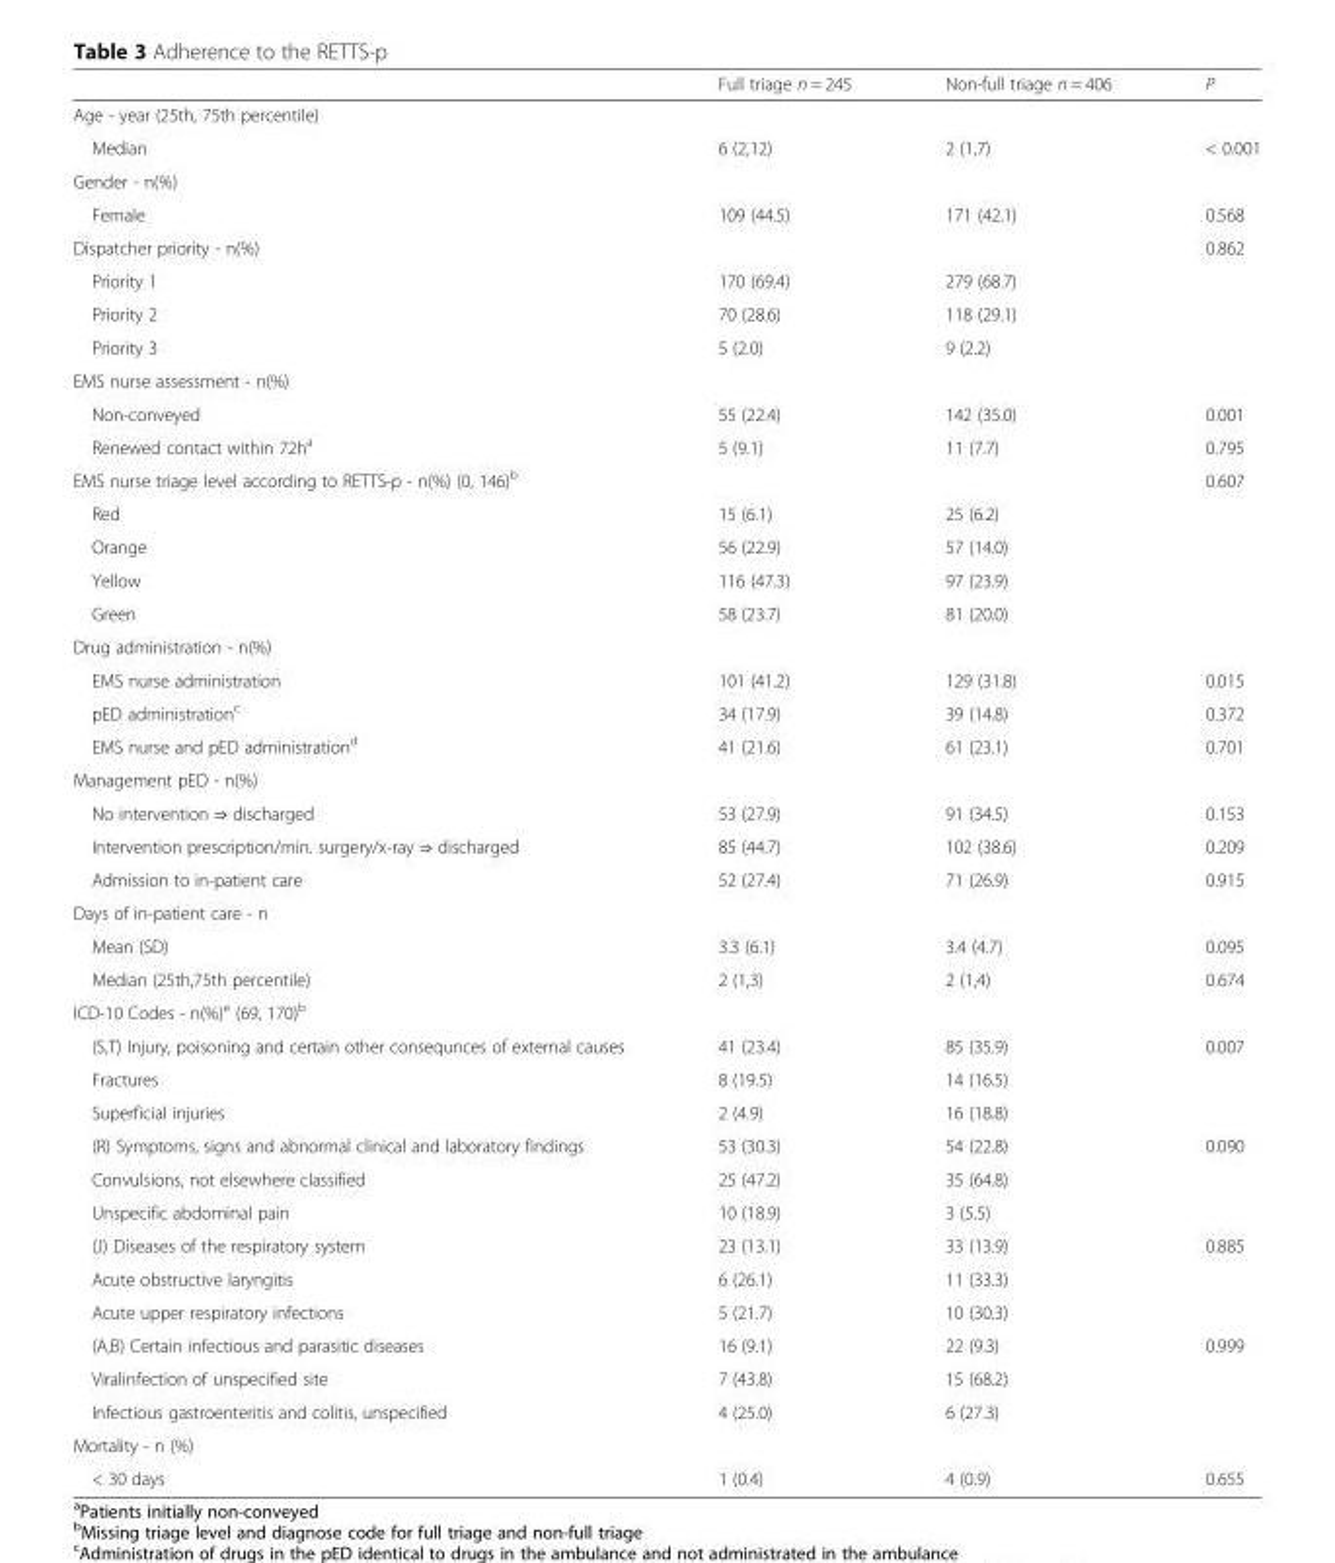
<table><thead><tr><td></td><td>Full triage n = 245</td><td>Non-full triage n = 406</td><td>P</td></tr></thead><tbody><tr><td colspan="4">Age - year (25th, 75th percentile)</td></tr><tr><td>Median</td><td>6 (2,12)</td><td>2 (1,7)</td><td>&lt; 0.001</td></tr><tr><td colspan="4">Gender - n(%)</td></tr><tr><td>Female</td><td>109 (44.5)</td><td>171 (42.1)</td><td>0.568</td></tr><tr><td>Dispatcher priority - n(%)</td><td></td><td></td><td>0.862</td></tr><tr><td>Priority 1</td><td>170 (69.4)</td><td>279 (68.7)</td><td></td></tr><tr><td>Priority 2</td><td>70 (28.6)</td><td>118 (29.1)</td><td></td></tr><tr><td>Priority 3</td><td>5 (2.0)</td><td>9 (2.2)</td><td></td></tr><tr><td colspan="4">EMS nurse assessment - n(%)</td></tr><tr><td>Non-conveyed</td><td>55 (22.4)</td><td>142 (35.0)</td><td>0.001</td></tr><tr><td>Renewed contact within 72h<sup>a</sup></td><td>5 (9.1)</td><td>11 (7.7)</td><td>0.795</td></tr><tr><td>EMS nurse triage level according to RETTS-p - n(%) (0, 146)<sup>b</sup></td><td></td><td></td><td>0.607</td></tr><tr><td>Red</td><td>15 (6.1)</td><td>25 (6.2)</td><td></td></tr><tr><td>Orange</td><td>56 (22.9)</td><td>57 (14.0)</td><td></td></tr><tr><td>Yellow</td><td>116 (47.3)</td><td>97 (23.9)</td><td></td></tr><tr><td>Green</td><td>58 (23.7)</td><td>81 (20.0)</td><td></td></tr><tr><td colspan="4">Drug administration - n(%)</td></tr><tr><td>EMS nurse administration</td><td>101 (41.2)</td><td>129 (31.8)</td><td>0.015</td></tr><tr><td>pED administration<sup>c</sup></td><td>34 (17.9)</td><td>39 (14.8)</td><td>0.372</td></tr><tr><td>EMS nurse and pED administration<sup>d</sup></td><td>41 (21.6)</td><td>61 (23.1)</td><td>0.701</td></tr><tr><td colspan="4">Management pED - n(%)</td></tr><tr><td>No intervention ⇒ discharged</td><td>53 (27.9)</td><td>91 (34.5)</td><td>0.153</td></tr><tr><td>Intervention prescription/min. surgery/x-ray ⇒ discharged</td><td>85 (44.7)</td><td>102 (38.6)</td><td>0.209</td></tr><tr><td>Admission to in-patient care</td><td>52 (27.4)</td><td>71 (26.9)</td><td>0.915</td></tr><tr><td colspan="4">Days of in-patient care - n</td></tr><tr><td>Mean (SD)</td><td>3.3 (6.1)</td><td>3.4 (4.7)</td><td>0.095</td></tr><tr><td>Median (25th,75th percentile)</td><td>2 (1,3)</td><td>2 (1,4)</td><td>0.674</td></tr><tr><td colspan="4">ICD-10 Codes - n(%)<sup>e</sup> (69, 170)<sup>b</sup></td></tr><tr><td>(S,T) Injury, poisoning and certain other consequnces of external causes</td><td>41 (23.4)</td><td>85 (35.9)</td><td>0.007</td></tr><tr><td>Fractures</td><td>8 (19.5)</td><td>14 (16.5)</td><td></td></tr><tr><td>Superficial injuries</td><td>2 (4.9)</td><td>16 (18.8)</td><td></td></tr><tr><td>(R) Symptoms, signs and abnormal clinical and laboratory findings</td><td>53 (30.3)</td><td>54 (22.8)</td><td>0.090</td></tr><tr><td>Convulsions, not elsewhere classified</td><td>25 (47.2)</td><td>35 (64.8)</td><td></td></tr><tr><td>Unspecific abdominal pain</td><td>10 (18.9)</td><td>3 (5.5)</td><td></td></tr><tr><td>(J) Diseases of the respiratory system</td><td>23 (13.1)</td><td>33 (13.9)</td><td>0.885</td></tr><tr><td>Acute obstructive laryngitis</td><td>6 (26.1)</td><td>11 (33.3)</td><td></td></tr><tr><td>Acute upper respiratory infections</td><td>5 (21.7)</td><td>10 (30.3)</td><td></td></tr><tr><td>(A,B) Certain infectious and parasitic diseases</td><td>16 (9.1)</td><td>22 (9.3)</td><td>0.999</td></tr><tr><td>Viralinfection of unspecified site</td><td>7 (43.8)</td><td>15 (68.2)</td><td></td></tr><tr><td>Infectious gastroenteritis and colitis, unspecified</td><td>4 (25.0)</td><td>6 (27.3)</td><td></td></tr><tr><td colspan="4">Mortality - n (%)</td></tr><tr><td>&lt; 30 days</td><td>1 (0.4)</td><td>4 (0.9)</td><td>0.655</td></tr></tbody></table>